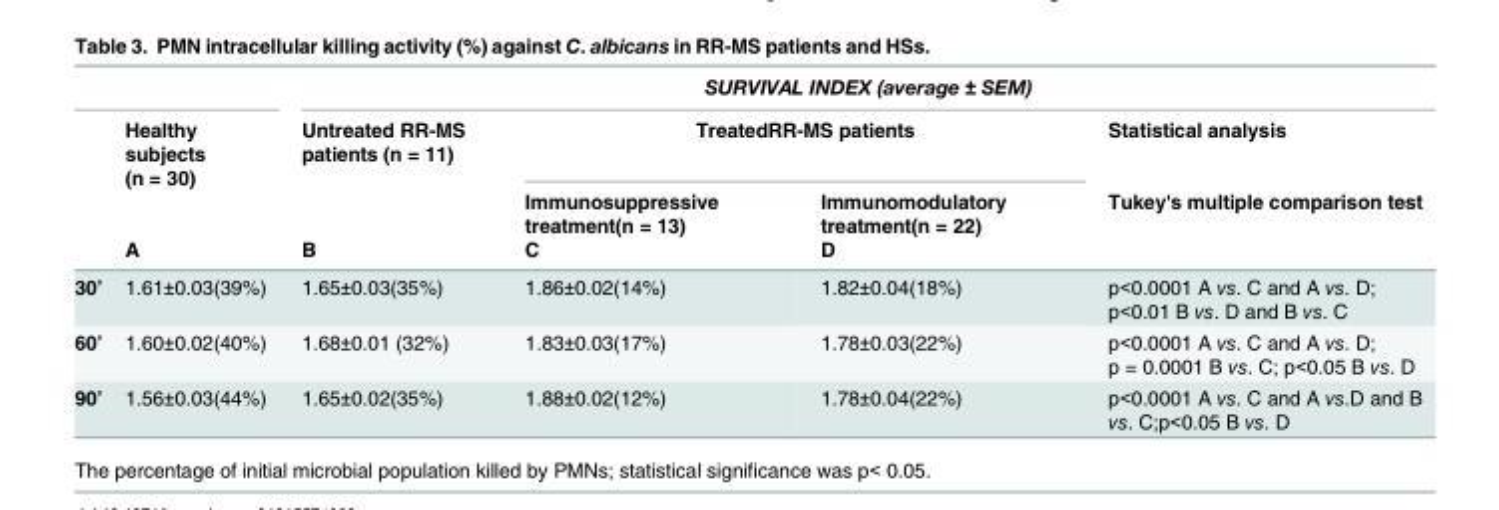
<table><thead><tr><td rowspan="4"></td><td rowspan="4">Healthy subjects (n = 30) A</td><td colspan="4">SURVIVAL INDEX (average ± SEM)</td></tr><tr><td rowspan="3">Untreated RR-MS patients (n = 11) B</td><td colspan="2">TreatedRR-MS patients</td><td rowspan="3">Statistical analysis Tukey&#x27;s multiple comparison test</td></tr><tr><td rowspan="2">Immunosuppressive treatment(n = 13) C</td><td rowspan="2">Immunomodulatory treatment(n = 22) D</td></tr><tr></tr></thead><tbody><tr><td>30’</td><td>1.61±0.03(39%)</td><td>1.65±0.03(35%)</td><td>1.86±0.02(14%)</td><td>1.82±0.04(18%)</td><td>p&lt;0.0001 A vs. C and A vs. D; p&lt;0.01 B vs. D and B vs. C</td></tr><tr><td>60’</td><td>1.60±0.02(40%)</td><td>1.68±0.01 (32%)</td><td>1.83±0.03(17%)</td><td>1.78±0.03(22%)</td><td>p&lt;0.0001 A vs. C and A vs. D; p = 0.0001 B vs. C; p&lt;0.05 B vs. D</td></tr><tr><td>90’</td><td>1.56±0.03(44%)</td><td>1.65±0.02(35%)</td><td>1.88±0.02(12%)</td><td>1.78±0.04(22%)</td><td>p&lt;0.0001 A vs. C and A vs.D and B vs. C;p&lt;0.05 B vs. D</td></tr></tbody></table>